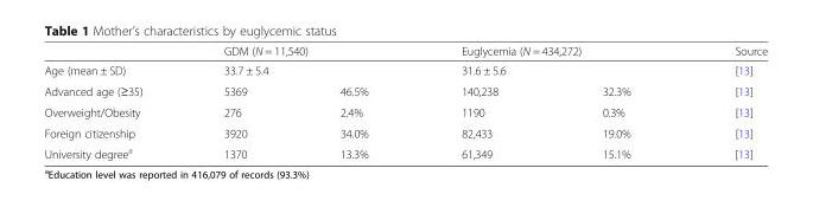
<table><thead><tr><td rowspan="3">Age (mean ± SD) Advanced age (≥35)</td><td rowspan="2" colspan="2">GDM (N = 11,540) 33.7 ± 5.4</td><td rowspan="2" colspan="2">Euglycemia (N = 434,272) 31.6 ± 5.6</td><td rowspan="3">Source [13] [13]</td></tr><tr></tr><tr><td>5369</td><td>46.5%</td><td>140,238</td><td>32.3%</td></tr></thead><tbody><tr><td>Overweight/Obesity</td><td>276</td><td>2.4%</td><td>1190</td><td>0.3%</td><td>[13]</td></tr><tr><td>Foreign citizenship</td><td>3920</td><td>34.0%</td><td>82,433</td><td>19.0%</td><td>[13]</td></tr><tr><td>University degree<sup>a</sup></td><td>1370</td><td>13.3%</td><td>61,349</td><td>15.1%</td><td>[13]</td></tr></tbody></table>